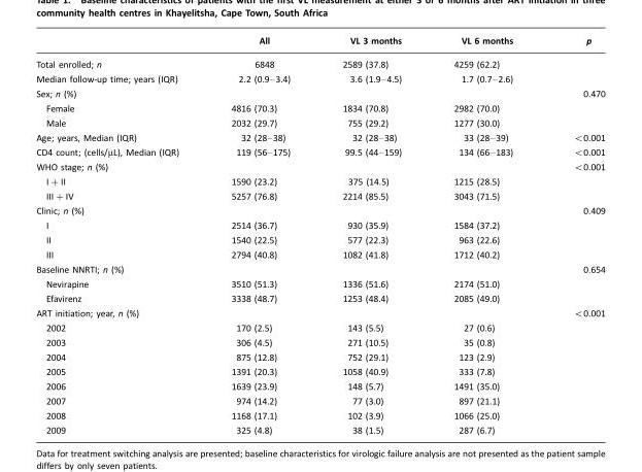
<table><thead><tr><td></td><td>All</td><td>VL 3 months</td><td>VL 6 months</td><td>p</td></tr></thead><tbody><tr><td>Total enrolled; n</td><td>6848</td><td>2589 (37.8)</td><td>4259 (62.2)</td><td></td></tr><tr><td>Median follow-up time; years (IQR)</td><td>2.2 (0.9–3.4)</td><td>3.6 (1.9–4.5)</td><td>1.7 (0.7–2.6)</td><td></td></tr><tr><td>Sex; n (%)</td><td></td><td></td><td></td><td>0.470</td></tr><tr><td>Female</td><td>4816 (70.3)</td><td>1834 (70.8)</td><td>2982 (70.0)</td><td></td></tr><tr><td>Male</td><td>2032 (29.7)</td><td>755 (29.2)</td><td>1277 (30.0)</td><td></td></tr><tr><td>Age; years, Median (IQR)</td><td>32 (28–38)</td><td>32 (28–38)</td><td>33 (28–39)</td><td>&lt;0.001</td></tr><tr><td>CD4 count; (cells/µL), Median (IQR)</td><td>119 (56–175)</td><td>99.5 (44–159)</td><td>134 (66–183)</td><td>&lt;0.001</td></tr><tr><td>WHO stage; n (%)</td><td></td><td></td><td></td><td>&lt;0.001</td></tr><tr><td>I+II</td><td>1590 (23.2)</td><td>375 (14.5)</td><td>1215 (28.5)</td><td></td></tr><tr><td>III+IV</td><td>5257 (76.8)</td><td>2214 (85.5)</td><td>3043 (71.5)</td><td></td></tr><tr><td>Clinic; n (%)</td><td></td><td></td><td></td><td>0.409</td></tr><tr><td>I</td><td>2514 (36.7)</td><td>930 (35.9)</td><td>1584 (37.2)</td><td></td></tr><tr><td>II</td><td>1540 (22.5)</td><td>577 (22.3)</td><td>963 (22.6)</td><td></td></tr><tr><td>III</td><td>2794 (40.8)</td><td>1082 (41.8)</td><td>1712 (40.2)</td><td></td></tr><tr><td>Baseline NNRTI; n (%)</td><td></td><td></td><td></td><td>0.654</td></tr><tr><td>Nevirapine</td><td>3510 (51.3)</td><td>1336 (51.6)</td><td>2174 (51.0)</td><td></td></tr><tr><td>Efavirenz</td><td>3338 (48.7)</td><td>1253 (48.4)</td><td>2085 (49.0)</td><td></td></tr><tr><td>ART initiation; year, n (%)</td><td></td><td></td><td></td><td>&lt;0.001</td></tr><tr><td>2002</td><td>170 (2.5)</td><td>143 (5.5)</td><td>27 (0.6)</td><td></td></tr><tr><td>2003</td><td>306 (4.5)</td><td>271 (10.5)</td><td>35 (0.8)</td><td></td></tr><tr><td>2004</td><td>875 (12.8)</td><td>752 (29.1)</td><td>123 (2.9)</td><td></td></tr><tr><td>2005</td><td>1391 (20.3)</td><td>1058 (40.9)</td><td>333 (7.8)</td><td></td></tr><tr><td>2006</td><td>1639 (23.9)</td><td>148 (5.7)</td><td>1491 (35.0)</td><td></td></tr><tr><td>2007</td><td>974 (14.2)</td><td>77 (3.0)</td><td>897 (21.1)</td><td></td></tr><tr><td>2008</td><td>1168 (17.1)</td><td>102 (3.9)</td><td>1066 (25.0)</td><td></td></tr><tr><td>2009</td><td>325 (4.8)</td><td>38 (1.5)</td><td>287 (6.7)</td><td></td></tr></tbody></table>